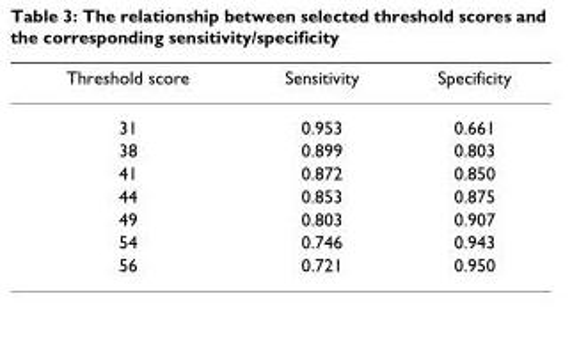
<table><thead><tr><td>Threshold score</td><td>Sensitivity</td><td>Specificity</td></tr></thead><tbody><tr><td>31</td><td>0.953</td><td>0.661</td></tr><tr><td>38</td><td>0.899</td><td>0.803</td></tr><tr><td>41</td><td>0.872</td><td>0.850</td></tr><tr><td>44</td><td>0.853</td><td>0.875</td></tr><tr><td>49</td><td>0.803</td><td>0.907</td></tr><tr><td>54</td><td>0.746</td><td>0.943</td></tr><tr><td>56</td><td>0.721</td><td>0.950</td></tr></tbody></table>